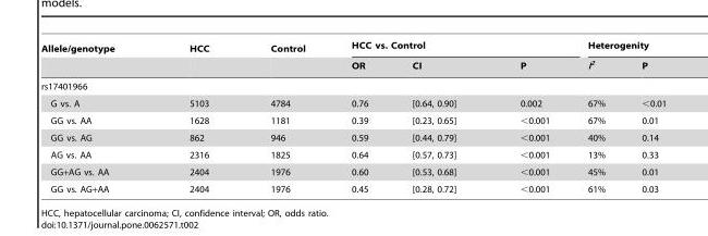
<table><thead><tr><td rowspan="2">Allele/genotype</td><td rowspan="2">HCC</td><td rowspan="2">Control</td><td colspan="3">HCC vs. Control</td><td colspan="2">Heterogenity</td></tr><tr><td>OR</td><td>CI</td><td>P</td><td>I<sup>2</sup></td><td>P</td></tr></thead><tbody><tr><td colspan="8">rs17401966</td></tr><tr><td>G vs. A</td><td>5103</td><td>4784</td><td>0.76</td><td>[0.64, 0.90]</td><td>0.002</td><td>67%</td><td>&lt;0.01</td></tr><tr><td>GG vs. AA</td><td>1628</td><td>1181</td><td>0.39</td><td>[0.23, 0.65]</td><td>&lt;0.001</td><td>67%</td><td>0.01</td></tr><tr><td>GG vs. AG</td><td>862</td><td>946</td><td>0.59</td><td>[0.44, 0.79]</td><td>&lt;0.001</td><td>40%</td><td>0.14</td></tr><tr><td>AG vs. AA</td><td>2316</td><td>1825</td><td>0.64</td><td>[0.57, 0.73]</td><td>&lt;0.001</td><td>13%</td><td>0.33</td></tr><tr><td>GG+AG vs. AA</td><td>2404</td><td>1976</td><td>0.60</td><td>[0.53, 0.68]</td><td>&lt;0.001</td><td>45%</td><td>0.01</td></tr><tr><td>GG vs. AG+AA</td><td>2404</td><td>1976</td><td>0.45</td><td>[0.28, 0.72]</td><td>&lt;0.001</td><td>61%</td><td>0.03</td></tr></tbody></table>